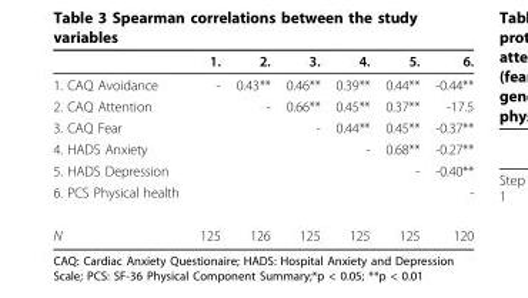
<table><thead><tr><td></td><td>1.</td><td>2.</td><td>3.</td><td>4.</td><td>5.</td><td>6.</td></tr></thead><tbody><tr><td>1. CAQ Avoidance</td><td>-</td><td>0.43**</td><td>0.46**</td><td>0.39**</td><td>0.44**</td><td>-0.44**</td></tr><tr><td>2. CAQ Attention</td><td></td><td>-</td><td>0.66**</td><td>0.45**</td><td>0.37**</td><td>-17.5</td></tr><tr><td>3. CAQ Fear</td><td></td><td></td><td>-</td><td>0.44**</td><td>0.45**</td><td>-0.37**</td></tr><tr><td>4. HADS Anxiety</td><td></td><td></td><td></td><td>-</td><td>0.68**</td><td>-0.27**</td></tr><tr><td>5. HADS Depression</td><td></td><td></td><td></td><td></td><td>-</td><td>-0.40**</td></tr><tr><td>6. PCS Physical health</td><td></td><td></td><td></td><td></td><td></td><td>-</td></tr><tr><td>N</td><td>125</td><td>126</td><td>125</td><td>125</td><td>125</td><td>120</td></tr></tbody></table>